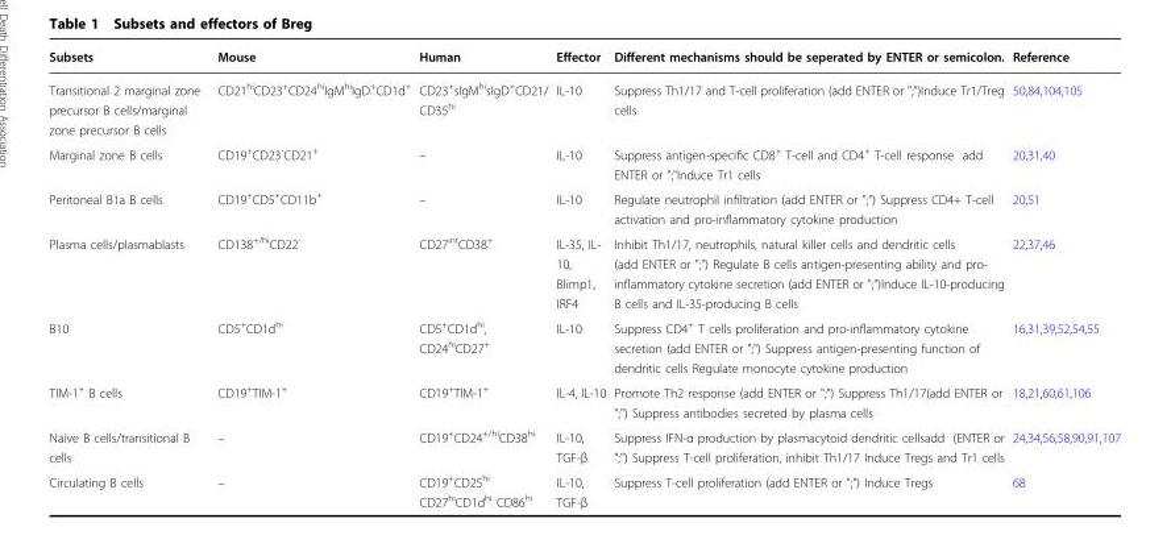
<table><thead><tr><td>Subsets</td><td>Mouse</td><td>Human</td><td>Effector</td><td>Different mechanisms should be seperated by ENTER or semicolon.</td><td>Reference</td></tr></thead><tbody><tr><td>Transitional 2 marginal zone precursor B cells/marginal zone precursor B cells</td><td>CD21<sup>hi</sup>CD23<sup>+</sup>CD24<sup>hi</sup>IgM<sup>hi</sup>IgD<sup>+</sup>CD1d<sup>+</sup></td><td>CD23<sup>+</sup>sIgM<sup>hi</sup>sIgD<sup>+</sup>CD21/ CD35<sup>hi</sup></td><td>IL-10</td><td>Suppress Th1/17 and T-cell proliferation (add ENTER or &quot;;&quot;)Induce Tr1/Treg cells</td><td>50,84,104,105</td></tr><tr><td>Marginal zone B cells</td><td>CD19<sup>+</sup>CD23<sup>-</sup>CD21<sup>+</sup></td><td>–</td><td>IL-10</td><td>Suppress antigen-specific CD8<sup>+</sup> T-cell and CD4<sup>+</sup> T-cell response add ENTER or &quot;;&quot;Induce Tr1 cells</td><td>20,31,40</td></tr><tr><td>Peritoneal B1a B cells</td><td>CD19<sup>+</sup>CD5<sup>+</sup>CD11b<sup>+</sup></td><td>–</td><td>IL-10</td><td>Regulate neutrophil infiltration (add ENTER or &quot;;&quot;) Suppress CD4+ T-cell activation and pro-inflammatory cytokine production</td><td>20,51</td></tr><tr><td>Plasma cells/plasmablasts</td><td>CD138<sup>+/hi</sup>CD22<sup>-</sup></td><td>CD27<sup>int</sup>CD38<sup>+</sup></td><td>IL-35, IL- 10, Blimp1, IRF4</td><td>Inhibit Th1/17, neutrophils, natural killer cells and dendritic cells (add ENTER or &quot;;&quot;) Regulate B cells antigen-presenting ability and pro- inflammatory cytokine secretion (add ENTER or &quot;;&quot;)Induce IL-10-producing B cells and IL-35-producing B cells</td><td>22,37,46</td></tr><tr><td>B10</td><td>CD5<sup>+</sup>CD1d<sup>hi</sup></td><td>CD5<sup>+</sup>CD1d<sup>hi</sup>, CD24<sup>hi</sup>CD27<sup>+</sup></td><td>IL-10</td><td>Suppress CD4<sup>+</sup> T cells proliferation and pro-inflammatory cytokine secretion (add ENTER or &quot;;&quot;) Suppress antigen-presenting function of dendritic cells Regulate monocyte cytokine production</td><td>16,31,39,52,54,55</td></tr><tr><td>TIM-1<sup>+</sup> B cells</td><td>CD19<sup>+</sup>TIM-1<sup>+</sup></td><td>CD19<sup>+</sup>TIM-1<sup>+</sup></td><td>IL-4, IL-10</td><td>Promote Th2 response (add ENTER or &quot;;&quot;) Suppress Th1/17(add ENTER or &quot;;&quot;) Suppress antibodies secreted by plasma cells</td><td>18,21,60,61,106</td></tr><tr><td>Naive B cells/transitional B cells</td><td>–</td><td>CD19<sup>+</sup>CD24<sup>+/hi</sup>CD38<sup>hi</sup></td><td>IL-10, TGF-β</td><td>Suppress IFN-α production by plasmacytoid dendritic cellsadd (ENTER or &quot;;&quot;) Suppress T-cell proliferation, inhibit Th1/17 Induce Tregs and Tr1 cells</td><td>24,34,56,58,90,91,107</td></tr><tr><td>Circulating B cells</td><td>–</td><td>CD19<sup>+</sup>CD25<sup>hi</sup> CD27<sup>hi</sup>CD1d<sup>hi</sup> CD86<sup>hi</sup></td><td>IL-10, TGF-β</td><td>Suppress T-cell proliferation (add ENTER or &quot;;&quot;) Induce Tregs</td><td>68</td></tr></tbody></table>